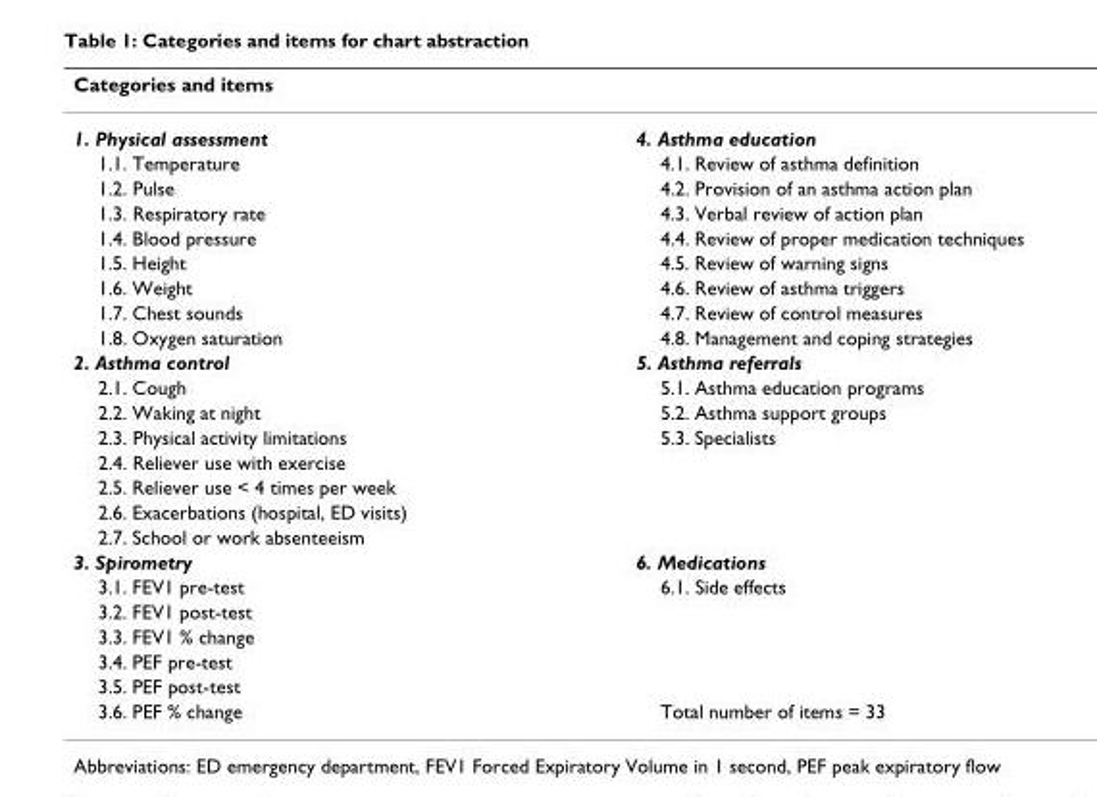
<table><thead><tr><td colspan="2">Categories and items</td></tr><tr><td>1. Physical assessment</td><td>4. Asthma education</td></tr></thead><tbody><tr><td>1.1. Temperature</td><td>4.1. Review of asthma definition</td></tr><tr><td>1.2. Pulse</td><td>4.2. Provision of an asthma action plan</td></tr><tr><td>1.3. Respiratory rate</td><td>4.3. Verbal review of action plan</td></tr><tr><td>1.4. Blood pressure</td><td>4.4. Review of proper medication techniques</td></tr><tr><td>1.5. Height</td><td>4.5. Review of warning signs</td></tr><tr><td>1.6. Weight</td><td>4.6. Review of asthma triggers</td></tr><tr><td>1.7. Chest sounds</td><td>4.7. Review of control measures</td></tr><tr><td>1.8. Oxygen saturation</td><td>4.8. Management and coping strategies</td></tr><tr><td>2. Asthma control</td><td>5. Asthma referrals</td></tr><tr><td>2.1. Cough</td><td>5.1. Asthma education programs</td></tr><tr><td>2.2. Waking at night</td><td>5.2. Asthma support groups</td></tr><tr><td>2.3. Physical activity limitations</td><td>5.3. Specialists</td></tr><tr><td colspan="2">2.4. Reliever use with exercise</td></tr><tr><td colspan="2">2.5. Reliever use &lt; 4 times per week</td></tr><tr><td colspan="2">2.6. Exacerbations (hospital, ED visits)</td></tr><tr><td colspan="2">2.7. School or work absenteeism</td></tr><tr><td>3. Spirometry</td><td>6. Medications</td></tr><tr><td>3.1. FEV1 pre-test</td><td>6.1. Side effects</td></tr><tr><td colspan="2">3.2. FEV1 post-test</td></tr><tr><td colspan="2">3.3. FEV1 % change</td></tr><tr><td colspan="2">3.4. PEF pre-test</td></tr><tr><td colspan="2">3.5. PEF post-test</td></tr><tr><td>3.6. PEF % change</td><td>Total number of items = 33</td></tr></tbody></table>